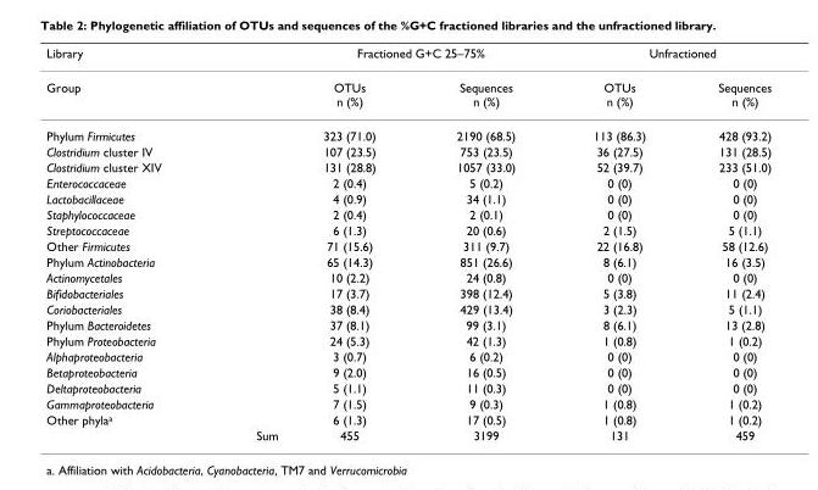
<table><thead><tr><td rowspan="2">Library Group</td><td colspan="2">Fractioned G+C 25–75%</td><td colspan="2">Unfractioned</td></tr><tr><td>OTUs n (%)</td><td>Sequences n (%)</td><td>OTUs n (%)</td><td>Sequences n (%)</td></tr></thead><tbody><tr><td>Phylum Firmicutes</td><td>323 (71.0)</td><td>2190 (68.5)</td><td>113 (86.3)</td><td>428 (93.2)</td></tr><tr><td>Clostridium cluster IV</td><td>107 (23.5)</td><td>753 (23.5)</td><td>36 (27.5)</td><td>131 (28.5)</td></tr><tr><td>Clostridium cluster XIV</td><td>131 (28.8)</td><td>1057 (33.0)</td><td>52 (39.7)</td><td>233 (51.0)</td></tr><tr><td>Enterococcaceae</td><td>2 (0.4)</td><td>5 (0.2)</td><td>0 (0)</td><td>0 (0)</td></tr><tr><td>Lactobacillaceae</td><td>4 (0.9)</td><td>34 (1.1)</td><td>0 (0)</td><td>0 (0)</td></tr><tr><td>Staphylococcaceae</td><td>2 (0.4)</td><td>2 (0.1)</td><td>0 (0)</td><td>0 (0)</td></tr><tr><td>Streptococcaceae</td><td>6 (1.3)</td><td>20 (0.6)</td><td>2 (1.5)</td><td>5 (1.1)</td></tr><tr><td>Other Firmicutes</td><td>71 (15.6)</td><td>311 (9.7)</td><td>22 (16.8)</td><td>58 (12.6)</td></tr><tr><td>Phylum Actinobacteria</td><td>65 (14.3)</td><td>851 (26.6)</td><td>8 (6.1)</td><td>16 (3.5)</td></tr><tr><td>Actinomycetales</td><td>10 (2.2)</td><td>24 (0.8)</td><td>0 (0)</td><td>0 (0)</td></tr><tr><td>Bifidobacteriales</td><td>17 (3.7)</td><td>398 (12.4)</td><td>5 (3.8)</td><td>11 (2.4)</td></tr><tr><td>Coriobacteriales</td><td>38 (8.4)</td><td>429 (13.4)</td><td>3 (2.3)</td><td>5 (1.1)</td></tr><tr><td>Phylum Bacteroidetes</td><td>37 (8.1)</td><td>99 (3.1)</td><td>8 (6.1)</td><td>13 (2.8)</td></tr><tr><td>Phylum Proteobacteria</td><td>24 (5.3)</td><td>42 (1.3)</td><td>1 (0.8)</td><td>1 (0.2)</td></tr><tr><td>Alphaproteobacteria</td><td>3 (0.7)</td><td>6 (0.2)</td><td>0 (0)</td><td>0 (0)</td></tr><tr><td>Betaproteobacteria</td><td>9 (2.0)</td><td>16 (0.5)</td><td>0 (0)</td><td>0 (0)</td></tr><tr><td>Deltaproteobacteria</td><td>5 (1.1)</td><td>11 (0.3)</td><td>0 (0)</td><td>0 (0)</td></tr><tr><td>Gammaproteobacteria</td><td>7 (1.5)</td><td>9 (0.3)</td><td>1 (0.8)</td><td>1 (0.2)</td></tr><tr><td>Other phyla<sup>a</sup></td><td>6 (1.3)</td><td>17 (0.5)</td><td>1 (0.8)</td><td>1 (0.2)</td></tr><tr><td>Sum</td><td>455</td><td>3199</td><td>131</td><td>459</td></tr></tbody></table>